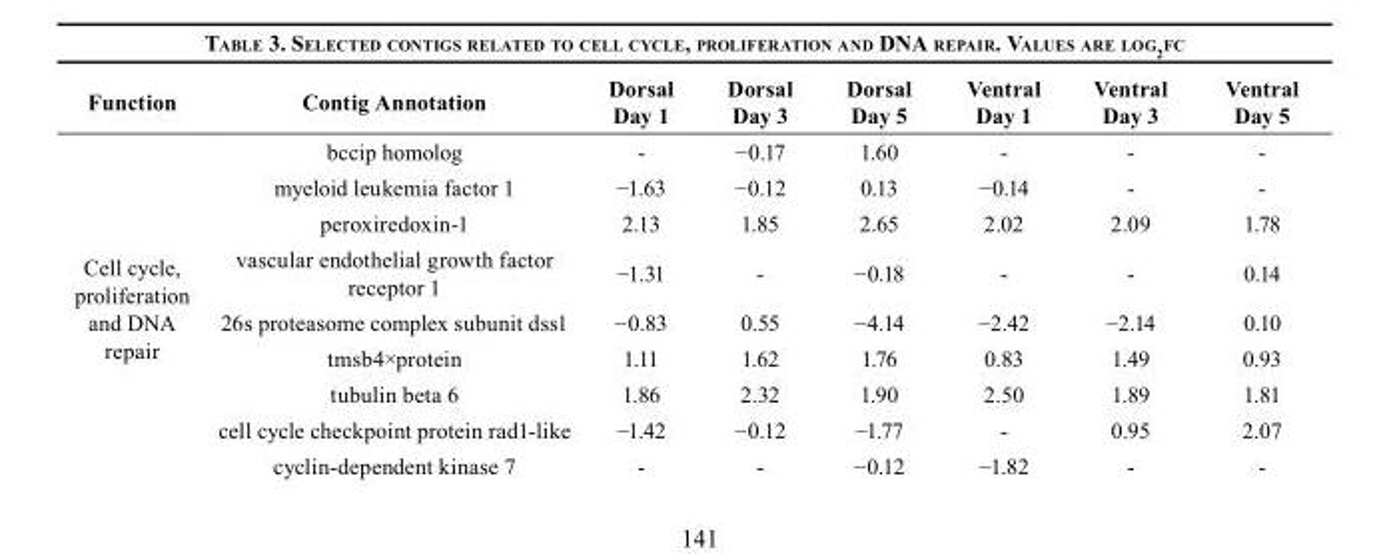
<table><thead><tr><td>Function</td><td>Contig Annotation</td><td>Dorsal Day 1</td><td>Dorsal Day 3</td><td>Dorsal Day 5</td><td>Ventral Day 1</td><td>Ventral Day 3</td><td>Ventral Day 5</td></tr></thead><tbody><tr><td rowspan="9">Cell cycle, proliferation and DNA repair</td><td>bccip homolog</td><td>-</td><td>−0.17</td><td>1.60</td><td>-</td><td>-</td><td>-</td></tr><tr><td>myeloid leukemia factor 1</td><td>−1.63</td><td>−0.12</td><td>0.13</td><td>−0.14</td><td>-</td><td>-</td></tr><tr><td>peroxiredoxin-1</td><td>2.13</td><td>1.85</td><td>2.65</td><td>2.02</td><td>2.09</td><td>1.78</td></tr><tr><td>vascular endothelial growth factor receptor 1</td><td>−1.31</td><td>-</td><td>−0.18</td><td>-</td><td>-</td><td>0.14</td></tr><tr><td>26s proteasome complex subunit dss1</td><td>−0.83</td><td>0.55</td><td>−4.14</td><td>−2.42</td><td>−2.14</td><td>0.10</td></tr><tr><td>tmsb4×protein</td><td>1.11</td><td>1.62</td><td>1.76</td><td>0.83</td><td>1.49</td><td>0.93</td></tr><tr><td>tubulin beta 6</td><td>1.86</td><td>2.32</td><td>1.90</td><td>2.50</td><td>1.89</td><td>1.81</td></tr><tr><td>cell cycle checkpoint protein rad1-like</td><td>−1.42</td><td>−0.12</td><td>−1.77</td><td>-</td><td>0.95</td><td>2.07</td></tr><tr><td>cyclin-dependent kinase 7</td><td>-</td><td>-</td><td>−0.12</td><td>−1.82</td><td>-</td><td>-</td></tr></tbody></table>